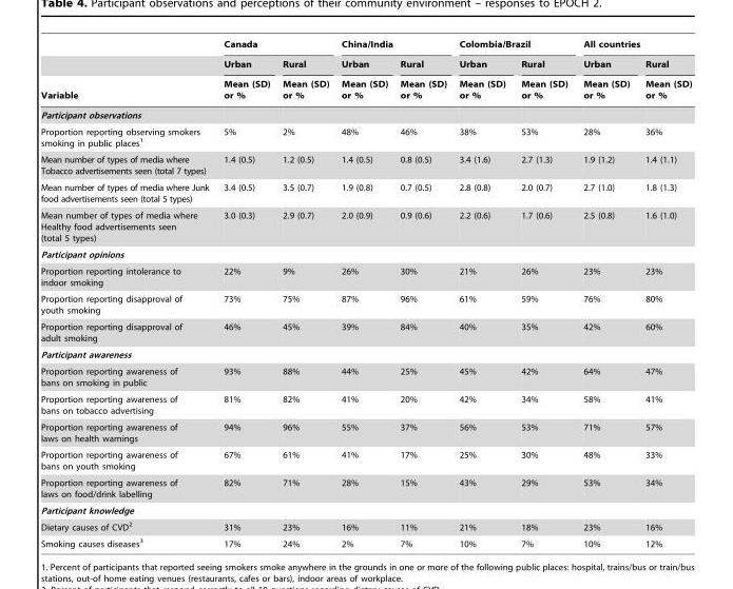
<table><thead><tr><td rowspan="3">Variable</td><td colspan="2">Canada</td><td colspan="2">China/India</td><td colspan="2">Colombia/Brazil</td><td colspan="2">All countries</td></tr><tr><td rowspan="2">Urban Mean (SD) or %</td><td rowspan="2">Rural Mean (SD) or %</td><td rowspan="2">Urban Mean (SD) or %</td><td rowspan="2">Rural Mean (SD) or %</td><td rowspan="2">Urban Mean (SD) or %</td><td rowspan="2">Rural Mean (SD) or %</td><td rowspan="2">Urban Mean (SD) or %</td><td rowspan="2">Rural Mean (SD) or %</td></tr><tr></tr></thead><tbody><tr><td colspan="9">Participant observations</td></tr><tr><td>Proportion reporting observing smokers smoking in public places<sup>1</sup></td><td>5%</td><td>2%</td><td>48%</td><td>46%</td><td>38%</td><td>53%</td><td>28%</td><td>36%</td></tr><tr><td>Mean number of types of media where Tobacco advertisements seen (total 7 types)</td><td>1.4 (0.5)</td><td>1.2 (0.5)</td><td>1.4 (0.5)</td><td>0.8 (0.5)</td><td>3.4 (1.6)</td><td>2.7 (1.3)</td><td>1.9 (1.2)</td><td>1.4 (1.1)</td></tr><tr><td>Mean number of types of media where Junk food advertisements seen (total 5 types)</td><td>3.4 (0.5)</td><td>3.5 (0.7)</td><td>1.9 (0.8)</td><td>0.7 (0.5)</td><td>2.8 (0.8)</td><td>2.0 (0.7)</td><td>2.7 (1.0)</td><td>1.8 (1.3)</td></tr><tr><td>Mean number of types of media where Healthy food advertisements seen (total 5 types)</td><td>3.0 (0.3)</td><td>2.9 (0.7)</td><td>2.0 (0.9)</td><td>0.9 (0.6)</td><td>2.2 (0.6)</td><td>1.7 (0.6)</td><td>2.5 (0.8)</td><td>1.6 (1.0)</td></tr><tr><td colspan="9">Participant opinions</td></tr><tr><td>Proportion reporting intolerance to indoor smoking</td><td>22%</td><td>9%</td><td>26%</td><td>30%</td><td>21%</td><td>26%</td><td>23%</td><td>23%</td></tr><tr><td>Proportion reporting disapproval of youth smoking</td><td>73%</td><td>75%</td><td>87%</td><td>96%</td><td>61%</td><td>59%</td><td>76%</td><td>80%</td></tr><tr><td>Proportion reporting disapproval of adult smoking</td><td>46%</td><td>45%</td><td>39%</td><td>84%</td><td>40%</td><td>35%</td><td>42%</td><td>60%</td></tr><tr><td colspan="9">Participant awareness</td></tr><tr><td>Proportion reporting awareness of bans on smoking in public</td><td>93%</td><td>88%</td><td>44%</td><td>25%</td><td>45%</td><td>42%</td><td>64%</td><td>47%</td></tr><tr><td>Proportion reporting awareness of bans on tobacco advertising</td><td>81%</td><td>82%</td><td>41%</td><td>20%</td><td>42%</td><td>34%</td><td>58%</td><td>41%</td></tr><tr><td>Proportion reporting awareness of laws on health warnings</td><td>94%</td><td>96%</td><td>55%</td><td>37%</td><td>56%</td><td>53%</td><td>71%</td><td>57%</td></tr><tr><td>Proportion reporting awareness of bans on youth smoking</td><td>67%</td><td>61%</td><td>41%</td><td>17%</td><td>25%</td><td>30%</td><td>48%</td><td>33%</td></tr><tr><td>Proportion reporting awareness of laws on food/drink labelling</td><td>82%</td><td>71%</td><td>28%</td><td>15%</td><td>43%</td><td>29%</td><td>53%</td><td>34%</td></tr><tr><td colspan="9">Participant knowledge</td></tr><tr><td>Dietary causes of CVD<sup>2</sup></td><td>31%</td><td>23%</td><td>16%</td><td>11%</td><td>21%</td><td>18%</td><td>23%</td><td>16%</td></tr><tr><td>Smoking causes diseases<sup>3</sup></td><td>17%</td><td>24%</td><td>2%</td><td>7%</td><td>10%</td><td>7%</td><td>10%</td><td>12%</td></tr></tbody></table>